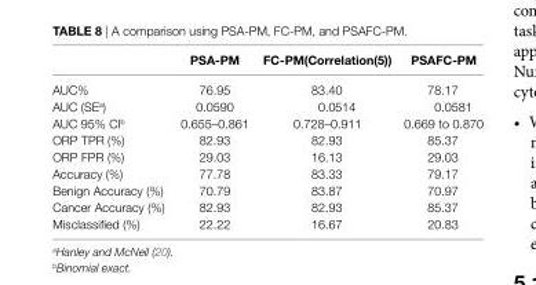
<table><thead><tr><td></td><td>Psa-PM</td><td>Fc-PM(correlation(5))</td><td>PsaFc-PM</td></tr></thead><tbody><tr><td>AUC%</td><td>76.95</td><td>83.40</td><td>78.17</td></tr><tr><td>AUC (SE<sup>a</sup>)</td><td>0.0590</td><td>0.0514</td><td>0.0581</td></tr><tr><td>AUC 95% CI<sup>b</sup></td><td>0.655–0.861</td><td>0.728–0.911</td><td>0.669 to 0.870</td></tr><tr><td>ORP TPR (%)</td><td>82.93</td><td>82.93</td><td>85.37</td></tr><tr><td>ORP FPR (%)</td><td>29.03</td><td>16.13</td><td>29.03</td></tr><tr><td>Accuracy (%)</td><td>77.78</td><td>83.33</td><td>79.17</td></tr><tr><td>Benign Accuracy (%)</td><td>70.79</td><td>83.87</td><td>70.97</td></tr><tr><td>Cancer Accuracy (%)</td><td>82.93</td><td>82.93</td><td>85.37</td></tr><tr><td>Misclassified (%)</td><td>22.22</td><td>16.67</td><td>20.83</td></tr></tbody></table>